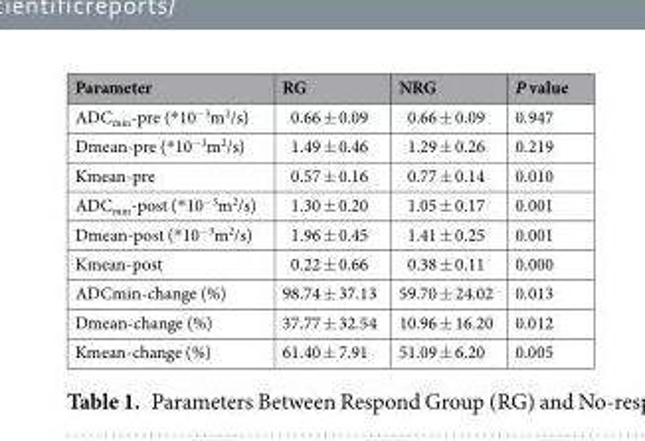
<table><thead><tr><td>Parameter</td><td>RG</td><td>NRG</td><td>P value</td></tr></thead><tbody><tr><td>ADC<sub>min</sub>-pre (*10<sup>−3</sup>m<sup>2</sup>/s)</td><td>0.66 ± 0.09</td><td>0.66 ± 0.09</td><td>0.947</td></tr><tr><td>Dmean-pre (*10<sup>−3</sup>m<sup>2</sup>/s)</td><td>1.49 ± 0.46</td><td>1.29 ± 0.26</td><td>0.219</td></tr><tr><td>Kmean-pre</td><td>0.57 ± 0.16</td><td>0.77 ± 0.14</td><td>0.010</td></tr><tr><td>ADC<sub>min</sub>-post (*10<sup>−3</sup>m<sup>2</sup>/s)</td><td>1.30 ± 0.20</td><td>1.05 ± 0.17</td><td>0.001</td></tr><tr><td>Dmean-post (*10<sup>−3</sup>m<sup>2</sup>/s)</td><td>1.96 ± 0.45</td><td>1.41 ± 0.25</td><td>0.001</td></tr><tr><td>Kmean-post</td><td>0.22 ± 0.66</td><td>0.38 ± 0.11</td><td>0.000</td></tr><tr><td>ADCmin-change (%)</td><td>98.74 ± 37.13</td><td>59.70 ± 24.02</td><td>0.013</td></tr><tr><td>Dmean-change (%)</td><td>37.77 ± 32.54</td><td>10.96 ± 16.20</td><td>0.012</td></tr><tr><td>Kmean-change (%)</td><td>61.40 ± 7.91</td><td>51.09 ± 6.20</td><td>0.005</td></tr></tbody></table>